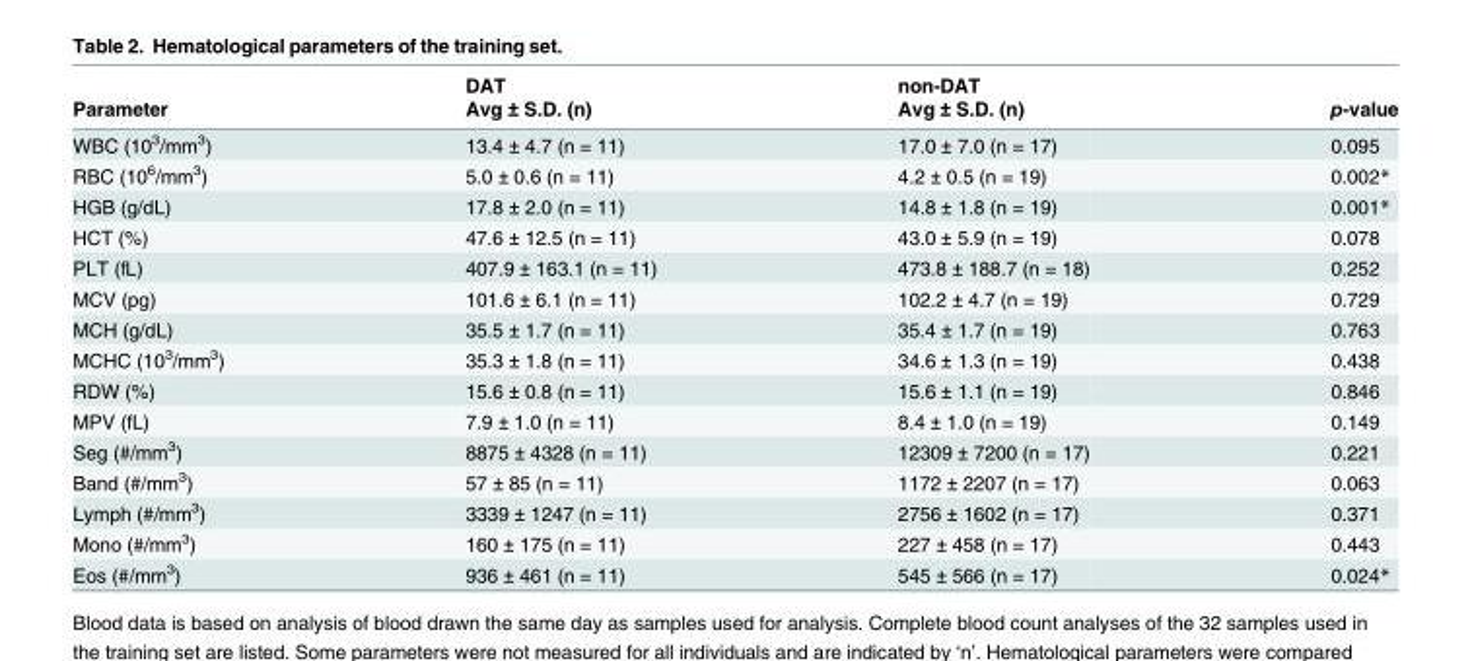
<table><thead><tr><td rowspan="2">Parameter</td><td rowspan="2">DAT Avg ± S.D. (n)</td><td rowspan="2">non-DAT Avg ± S.D. (n)</td><td rowspan="2">p-value</td></tr><tr></tr></thead><tbody><tr><td>WBC (10<sup>3</sup>/mm<sup>3</sup>)</td><td>13.4 ± 4.7 (n = 11)</td><td>17.0 ± 7.0 (n = 17)</td><td>0.095</td></tr><tr><td>RBC (10<sup>6</sup>/mm<sup>3</sup>)</td><td>5.0 ± 0.6 (n = 11)</td><td>4.2 ± 0.5 (n = 19)</td><td>0.002*</td></tr><tr><td>HGB (g/dL)</td><td>17.8 ± 2.0 (n = 11)</td><td>14.8 ± 1.8 (n = 19)</td><td>0.001*</td></tr><tr><td>HCT (%)</td><td>47.6 ± 12.5 (n = 11)</td><td>43.0 ± 5.9 (n = 19)</td><td>0.078</td></tr><tr><td>PLT (fL)</td><td>407.9 ± 163.1 (n = 11)</td><td>473.8 ± 188.7 (n = 18)</td><td>0.252</td></tr><tr><td>MCV (pg)</td><td>101.6 ± 6.1 (n = 11)</td><td>102.2 ± 4.7 (n = 19)</td><td>0.729</td></tr><tr><td>MCH (g/dL)</td><td>35.5 ± 1.7 (n = 11)</td><td>35.4 ± 1.7 (n = 19)</td><td>0.763</td></tr><tr><td>MCHC (10<sup>3</sup>/mm<sup>3</sup>)</td><td>35.3 ± 1.8 (n = 11)</td><td>34.6 ± 1.3 (n = 19)</td><td>0.438</td></tr><tr><td>RDW (%)</td><td>15.6 ± 0.8 (n = 11)</td><td>15.6 ± 1.1 (n = 19)</td><td>0.846</td></tr><tr><td>MPV (fL)</td><td>7.9 ± 1.0 (n = 11)</td><td>8.4 ± 1.0 (n = 19)</td><td>0.149</td></tr><tr><td>Seg (#/mm<sup>3</sup>)</td><td>8875 ± 4328 (n = 11)</td><td>12309 ± 7200 (n = 17)</td><td>0.221</td></tr><tr><td>Band (#/mm<sup>3</sup>)</td><td>57 ± 85 (n = 11)</td><td>1172 ± 2207 (n = 17)</td><td>0.063</td></tr><tr><td>Lymph (#/mm<sup>3</sup>)</td><td>3339 ± 1247 (n = 11)</td><td>2756 ± 1602 (n = 17)</td><td>0.371</td></tr><tr><td>Mono (#/mm<sup>3</sup>)</td><td>160 ± 175 (n = 11)</td><td>227 ± 458 (n = 17)</td><td>0.443</td></tr><tr><td>Eos (#/mm<sup>3</sup>)</td><td>936 ± 461 (n = 11)</td><td>545 ± 566 (n = 17)</td><td>0.024*</td></tr></tbody></table>